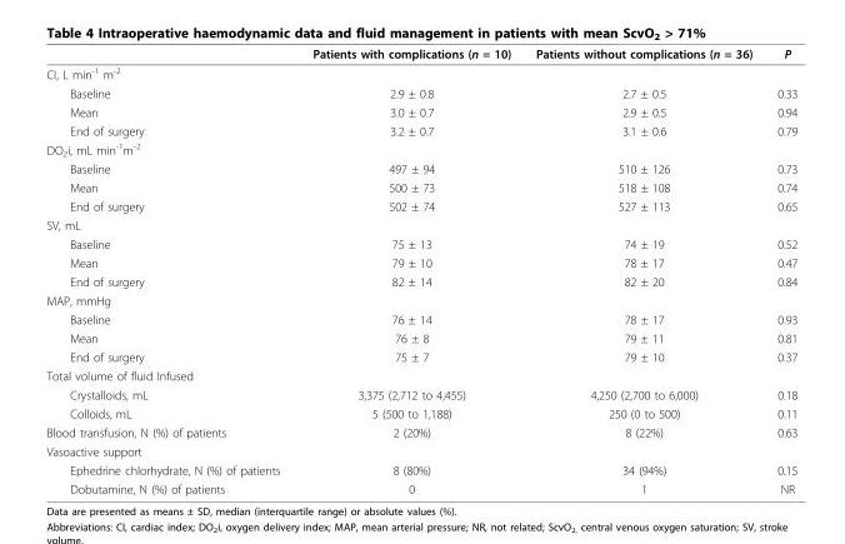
<table><thead><tr><td></td><td>Patients with complications (n = 10)</td><td>Patients without complications (n = 36)</td><td>P</td></tr></thead><tbody><tr><td colspan="4">CI, L min<sup>-1</sup> m<sup>-2</sup></td></tr><tr><td>Baseline</td><td>2.9 ± 0.8</td><td>2.7 ± 0.5</td><td>0.33</td></tr><tr><td>Mean</td><td>3.0 ± 0.7</td><td>2.9 ± 0.5</td><td>0.94</td></tr><tr><td>End of surgery</td><td>3.2 ± 0.7</td><td>3.1 ± 0.6</td><td>0.79</td></tr><tr><td colspan="4">DO<sub>2</sub>i, mL min<sup>-1</sup>m<sup>-2</sup></td></tr><tr><td>Baseline</td><td>497 ± 94</td><td>510 ± 126</td><td>0.73</td></tr><tr><td>Mean</td><td>500 ± 73</td><td>518 ± 108</td><td>0.74</td></tr><tr><td>End of surgery</td><td>502 ± 74</td><td>527 ± 113</td><td>0.65</td></tr><tr><td colspan="4">SV, mL</td></tr><tr><td>Baseline</td><td>75 ± 13</td><td>74 ± 19</td><td>0.52</td></tr><tr><td>Mean</td><td>79 ± 10</td><td>78 ± 17</td><td>0.47</td></tr><tr><td>End of surgery</td><td>82 ± 14</td><td>82 ± 20</td><td>0.84</td></tr><tr><td colspan="4">MAP, mmHg</td></tr><tr><td>Baseline</td><td>76 ± 14</td><td>78 ± 17</td><td>0.93</td></tr><tr><td>Mean</td><td>76 ± 8</td><td>79 ± 11</td><td>0.81</td></tr><tr><td>End of surgery</td><td>75 ± 7</td><td>79 ± 10</td><td>0.37</td></tr><tr><td colspan="4">Total volume of fluid Infused</td></tr><tr><td>Crystalloids, mL</td><td>3,375 (2,712 to 4,455)</td><td>4,250 (2,700 to 6,000)</td><td>0.18</td></tr><tr><td>Colloids, mL</td><td>5 (500 to 1,188)</td><td>250 (0 to 500)</td><td>0.11</td></tr><tr><td>Blood transfusion, N (%) of patients</td><td>2 (20%)</td><td>8 (22%)</td><td>0.63</td></tr><tr><td colspan="4">Vasoactive support</td></tr><tr><td>Ephedrine chlorhydrate, N (%) of patients</td><td>8 (80%)</td><td>34 (94%)</td><td>0.15</td></tr><tr><td>Dobutamine, N (%) of patients</td><td>0</td><td>1</td><td>NR</td></tr></tbody></table>